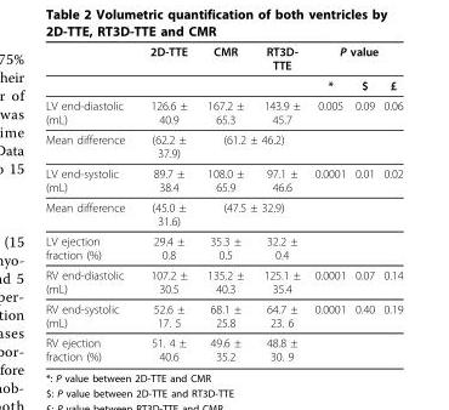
<table><thead><tr><td rowspan="2"></td><td rowspan="2">2D-TTE</td><td rowspan="2">CMR</td><td rowspan="2">RT3D- TTE</td><td colspan="3">P value</td></tr><tr><td>*</td><td>$</td><td>£</td></tr></thead><tbody><tr><td>LV end-diastolic (mL)</td><td>126.6 ± 40.9</td><td>167.2 ± 65.3</td><td>143.9 ± 45.7</td><td>0.005</td><td>0.09</td><td>0.06</td></tr><tr><td>Mean difference</td><td>(62.2 ± 37.9)</td><td colspan="2">(61.2 ± 46.2)</td><td></td><td></td><td></td></tr><tr><td>LV end-systolic (mL)</td><td>89.7 ± 38.4</td><td>108.0 ± 65.9</td><td>97.1 ± 46.6</td><td>0.0001</td><td>0.01</td><td>0.02</td></tr><tr><td>Mean difference</td><td>(45.0 ± 31.6)</td><td colspan="2">(47.5 ± 32.9)</td><td></td><td></td><td></td></tr><tr><td>LV ejection fraction (%)</td><td>29.4 ± 0.8</td><td>35.3 ± 0.5</td><td>32.2 ± 0.4</td><td></td><td></td><td></td></tr><tr><td>RV end-diastolic (mL)</td><td>107.2 ± 30.5</td><td>135.2 ± 40.3</td><td>125.1 ± 35.4</td><td>0.0001</td><td>0.07</td><td>0.14</td></tr><tr><td>RV end-systolic (mL)</td><td>52.6 ± 17. 5</td><td>68.1 ± 25.8</td><td>64.7 ± 23. 6</td><td>0.0001</td><td>0.40</td><td>0.19</td></tr><tr><td>RV ejection fraction (%)</td><td>51. 4 ± 40.6</td><td>49.6 ± 35.2</td><td>48.8 ± 30. 9</td><td></td><td></td><td></td></tr></tbody></table>